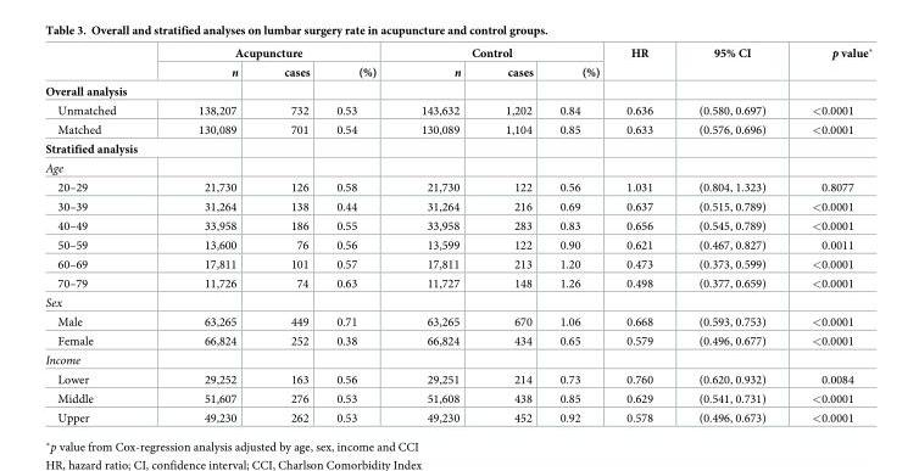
<table><thead><tr><td rowspan="2"></td><td colspan="3">Acupuncture</td><td colspan="3">Control</td><td rowspan="2">HR</td><td rowspan="2">95% CI</td><td rowspan="2">p value*</td></tr><tr><td>n</td><td>cases</td><td>(%)</td><td>n</td><td>cases</td><td>(%)</td></tr></thead><tbody><tr><td colspan="10">Overall analysis</td></tr><tr><td>Unmatched</td><td>138,207</td><td>732</td><td>0.53</td><td>143,632</td><td>1,202</td><td>0.84</td><td>0.636</td><td>(0.580, 0.697)</td><td>&lt;0.0001</td></tr><tr><td>Matched</td><td>130,089</td><td>701</td><td>0.54</td><td>130,089</td><td>1,104</td><td>0.85</td><td>0.633</td><td>(0.576, 0.696)</td><td>&lt;0.0001</td></tr><tr><td colspan="10">Stratified analysis</td></tr><tr><td colspan="10">Age</td></tr><tr><td>20–29</td><td>21,730</td><td>126</td><td>0.58</td><td>21,730</td><td>122</td><td>0.56</td><td>1.031</td><td>(0.804, 1.323)</td><td>0.8077</td></tr><tr><td>30–39</td><td>31,264</td><td>138</td><td>0.44</td><td>31,264</td><td>216</td><td>0.69</td><td>0.637</td><td>(0.515, 0.789)</td><td>&lt;0.0001</td></tr><tr><td>40–49</td><td>33,958</td><td>186</td><td>0.55</td><td>33,958</td><td>283</td><td>0.83</td><td>0.656</td><td>(0.545, 0.789)</td><td>&lt;0.0001</td></tr><tr><td>50–59</td><td>13,600</td><td>76</td><td>0.56</td><td>13,599</td><td>122</td><td>0.90</td><td>0.621</td><td>(0.467, 0.827)</td><td>0.0011</td></tr><tr><td>60–69</td><td>17,811</td><td>101</td><td>0.57</td><td>17,811</td><td>213</td><td>1.20</td><td>0.473</td><td>(0.373, 0.599)</td><td>&lt;0.0001</td></tr><tr><td>70–79</td><td>11,726</td><td>74</td><td>0.63</td><td>11,727</td><td>148</td><td>1.26</td><td>0.498</td><td>(0.377, 0.659)</td><td>&lt;0.0001</td></tr><tr><td colspan="10">Sex</td></tr><tr><td>Male</td><td>63,265</td><td>449</td><td>0.71</td><td>63,265</td><td>670</td><td>1.06</td><td>0.668</td><td>(0.593, 0.753)</td><td>&lt;0.0001</td></tr><tr><td>Female</td><td>66,824</td><td>252</td><td>0.38</td><td>66,824</td><td>434</td><td>0.65</td><td>0.579</td><td>(0.496, 0.677)</td><td>&lt;0.0001</td></tr><tr><td colspan="10">Income</td></tr><tr><td>Lower</td><td>29,252</td><td>163</td><td>0.56</td><td>29,251</td><td>214</td><td>0.73</td><td>0.760</td><td>(0.620, 0.932)</td><td>0.0084</td></tr><tr><td>Middle</td><td>51,607</td><td>276</td><td>0.53</td><td>51,608</td><td>438</td><td>0.85</td><td>0.629</td><td>(0.541, 0.731)</td><td>&lt;0.0001</td></tr><tr><td>Upper</td><td>49,230</td><td>262</td><td>0.53</td><td>49,230</td><td>452</td><td>0.92</td><td>0.578</td><td>(0.496, 0.673)</td><td>&lt;0.0001</td></tr></tbody></table>